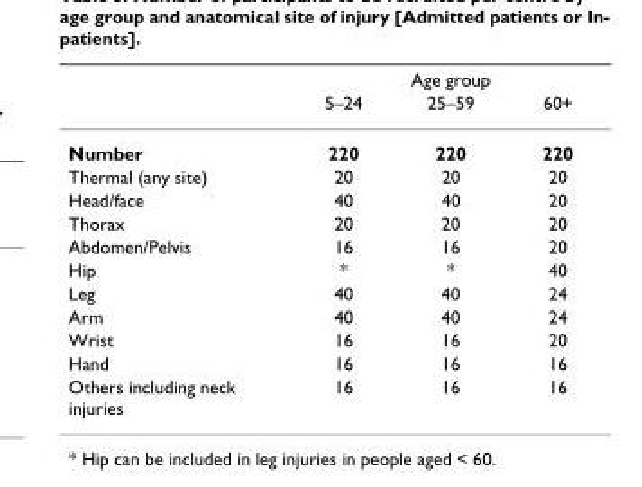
<table><thead><tr><td rowspan="2"></td><td colspan="3">Age group</td></tr><tr><td>5–24</td><td>25–59</td><td>60+</td></tr></thead><tbody><tr><td>Number</td><td>220</td><td>220</td><td>220</td></tr><tr><td>Thermal (any site)</td><td>20</td><td>20</td><td>20</td></tr><tr><td>Head/face</td><td>40</td><td>40</td><td>20</td></tr><tr><td>Thorax</td><td>20</td><td>20</td><td>20</td></tr><tr><td>Abdomen/Pelvis</td><td>16</td><td>16</td><td>20</td></tr><tr><td>Hip</td><td>*</td><td>*</td><td>40</td></tr><tr><td>Leg</td><td>40</td><td>40</td><td>24</td></tr><tr><td>Arm</td><td>40</td><td>40</td><td>24</td></tr><tr><td>Wrist</td><td>16</td><td>16</td><td>20</td></tr><tr><td>Hand</td><td>16</td><td>16</td><td>16</td></tr><tr><td>Others including neck injuries</td><td>16</td><td>16</td><td>16</td></tr></tbody></table>